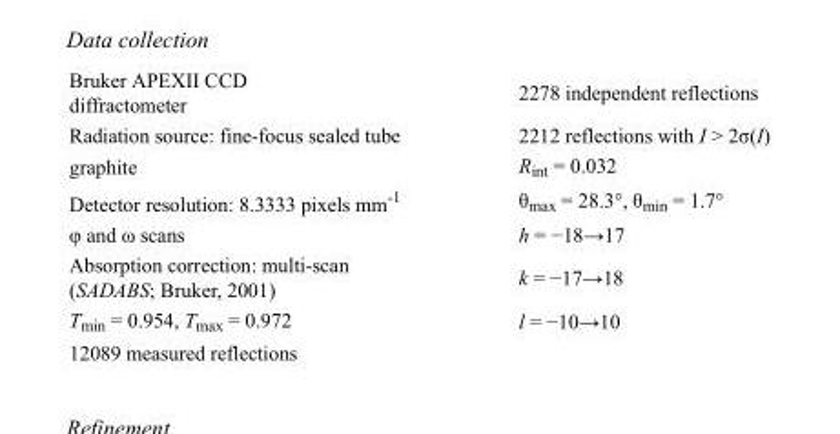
<table><tbody><tr><td>Bruker APEXII CCD diffractometer</td><td>2278 independent reflections</td></tr><tr><td>Radiation source: fine-focus sealed tube</td><td>2212 reflections with I &gt; 2σ(I)</td></tr><tr><td>graphite</td><td>R<sub>int</sub> = 0.032</td></tr><tr><td>Detector resolution: 8.3333 pixels mm<sup>-1</sup></td><td>θ<sub>max</sub> = 28.3°, θ<sub>min</sub> = 1.7°</td></tr><tr><td>φ and ω scans</td><td>h = −18→17</td></tr><tr><td>Absorption correction: multi-scan (SADABS; Bruker, 2001)</td><td>k = −17→18</td></tr><tr><td>T<sub>min</sub> = 0.954, T<sub>max</sub> = 0.972</td><td>l = −10→10</td></tr><tr><td>12089 measured reflections</td><td></td></tr></tbody></table>